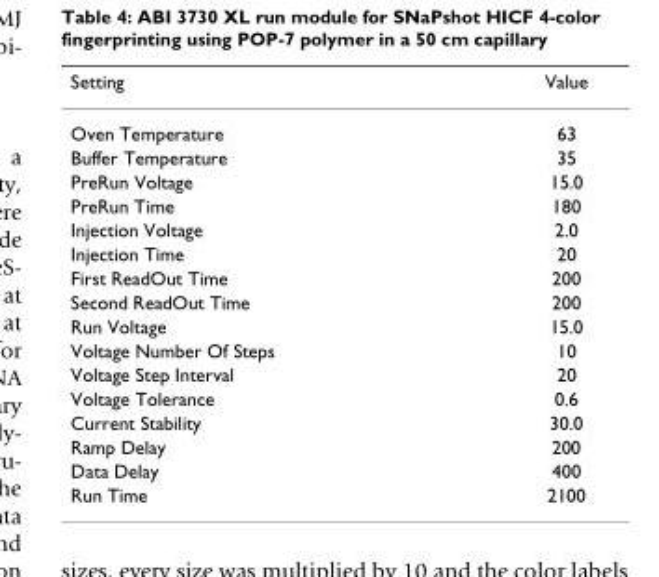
<table><thead><tr><td>Setting</td><td>Value</td></tr></thead><tbody><tr><td>Oven Temperature</td><td>63</td></tr><tr><td>Buffer Temperature</td><td>35</td></tr><tr><td>PreRun Voltage</td><td>15.0</td></tr><tr><td>PreRun Time</td><td>180</td></tr><tr><td>Injection Voltage</td><td>2.0</td></tr><tr><td>Injection Time</td><td>20</td></tr><tr><td>First ReadOut Time</td><td>200</td></tr><tr><td>Second ReadOut Time</td><td>200</td></tr><tr><td>Run Voltage</td><td>15.0</td></tr><tr><td>Voltage Number Of Steps</td><td>10</td></tr><tr><td>Voltage Step Interval</td><td>20</td></tr><tr><td>Voltage Tolerance</td><td>0.6</td></tr><tr><td>Current Stability</td><td>30.0</td></tr><tr><td>Ramp Delay</td><td>200</td></tr><tr><td>Data Delay</td><td>400</td></tr><tr><td>Run Time</td><td>2100</td></tr></tbody></table>